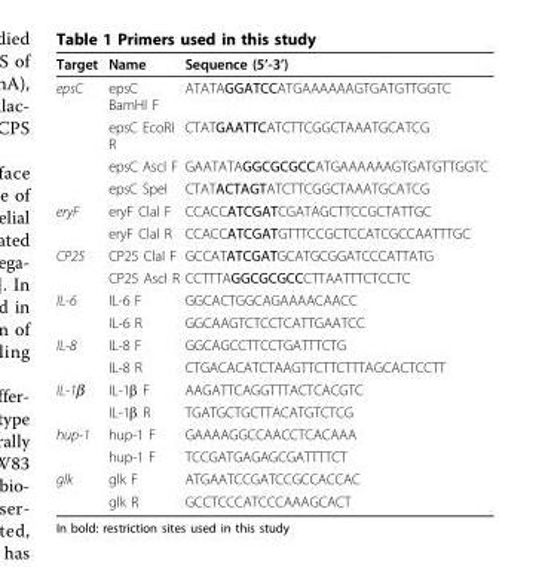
<table><thead><tr><td>Target</td><td>Name</td><td>Sequence (5’-3’)</td></tr></thead><tbody><tr><td rowspan="4">epsC</td><td>epsC BamHI F</td><td>ATATAGGATCCATGAAAAAAGTGATGTTGGTC</td></tr><tr><td>epsC EcoRI R</td><td>CTATGAATTCATCTTCGGCTAAATGCATCG</td></tr><tr><td>epsC AscI F</td><td>GAATATAGGCGCGCCATGAAAAAAGTGATGTTGGTC</td></tr><tr><td>epsC SpeI</td><td>CTATACTAGTATCTTCGGCTAAATGCATCG</td></tr><tr><td rowspan="2">eryF</td><td>eryF ClaI F</td><td>CCACCATCGATCGATAGCTTCCGCTATTGC</td></tr><tr><td>eryF ClaI R</td><td>CCACCATCGATGTTTCCGCTCCATCGCCAATTTGC</td></tr><tr><td rowspan="2">CP25</td><td>CP25 ClaI F</td><td>GCCATATCGATGCATGCGGATCCCATTATG</td></tr><tr><td>CP25 AscI R</td><td>CCTTTAGGCGCGCCCTTAATTTCTCCTC</td></tr><tr><td rowspan="2">IL-6</td><td>IL-6 F</td><td>GGCACTGGCAGAAAACAACC</td></tr><tr><td>IL-6 R</td><td>GGCAAGTCTCCTCATTGAATCC</td></tr><tr><td rowspan="2">IL-8</td><td>IL-8 F</td><td>GGCAGCCTTCCTGATTTCTG</td></tr><tr><td>IL-8 R</td><td>CTGACACATCTAAGTTCTTCTTTAGCACTCCTT</td></tr><tr><td rowspan="2">IL-1β</td><td>IL-1β F</td><td>AAGATTCAGGTTTACTCACGTC</td></tr><tr><td>IL-1β R</td><td>TGATGCTGCTTACATGTCTCG</td></tr><tr><td rowspan="2">hup-1</td><td>hup-1 F</td><td>GAAAAGGCCAACCTCACAAA</td></tr><tr><td>hup-1 F</td><td>TCCGATGAGAGCGATTTTCT</td></tr><tr><td rowspan="2">glk</td><td>glk F</td><td>ATGAATCCGATCCGCCACCAC</td></tr><tr><td>glk R</td><td>GCCTCCCATCCCAAAGCACT</td></tr></tbody></table>